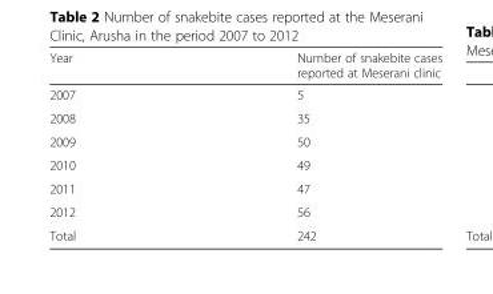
<table><thead><tr><td>Year</td><td>Number of snakebite cases reported at Meserani clinic</td></tr></thead><tbody><tr><td>2007</td><td>5</td></tr><tr><td>2008</td><td>35</td></tr><tr><td>2009</td><td>50</td></tr><tr><td>2010</td><td>49</td></tr><tr><td>2011</td><td>47</td></tr><tr><td>2012</td><td>56</td></tr><tr><td>Total</td><td>242</td></tr></tbody></table>